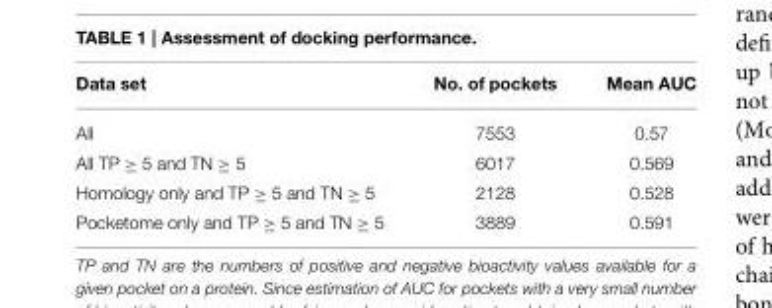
<table><thead><tr><td>Data set</td><td>No. of pockets</td><td>Mean AUC</td></tr></thead><tbody><tr><td>All</td><td>7553</td><td>0.57</td></tr><tr><td>All TP ≥ 5 and TN ≥ 5</td><td>6017</td><td>0.569</td></tr><tr><td>Homology only and TP ≥ 5 and TN ≥ 5</td><td>2128</td><td>0.528</td></tr><tr><td>Pocketome only and TP ≥ 5 and TN ≥ 5</td><td>3889</td><td>0.591</td></tr></tbody></table>